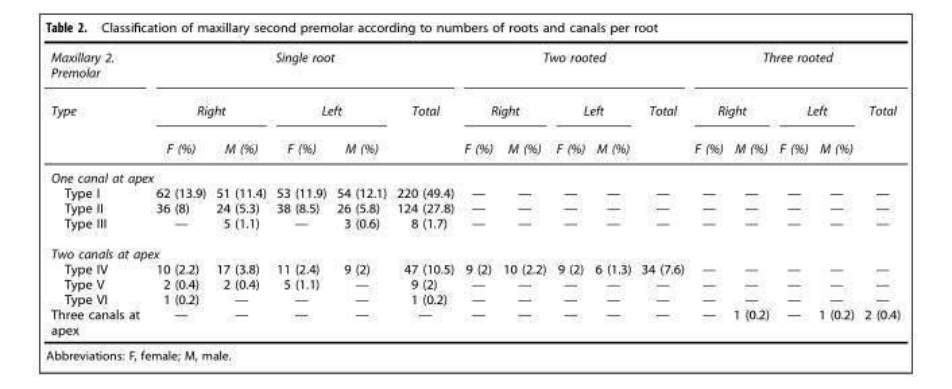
<table><thead><tr><td rowspan="3">Maxillary 2. Premolar Type</td><td colspan="5">Single root</td><td colspan="5">Two rooted</td><td colspan="5">Three rooted</td></tr><tr><td colspan="2">Right</td><td colspan="2">Left</td><td rowspan="2">Total</td><td colspan="2">Right</td><td colspan="2">Left</td><td rowspan="2">Total</td><td colspan="2">Right</td><td colspan="2">Left</td><td rowspan="2">Total</td></tr><tr><td>F (%)</td><td>M (%)</td><td>F (%)</td><td>M (%)</td><td>F (%)</td><td>M (%)</td><td>F (%)</td><td>M (%)</td><td>F (%)</td><td>M (%)</td><td>F (%)</td><td>M (%)</td></tr></thead><tbody><tr><td colspan="16">One canal at apex</td></tr><tr><td>Type I</td><td>62 (13.9)</td><td>51 (11.4)</td><td>53 (11.9)</td><td>54 (12.1)</td><td>220 (49.4)</td><td>—</td><td>—</td><td>—</td><td>—</td><td>—</td><td>—</td><td>—</td><td>—</td><td>—</td><td>—</td></tr><tr><td>Type II</td><td>36 (8)</td><td>24 (5.3)</td><td>38 (8.5)</td><td>26 (5.8)</td><td>124 (27.8)</td><td>—</td><td>—</td><td>—</td><td>—</td><td>—</td><td>—</td><td>—</td><td>—</td><td>—</td><td>—</td></tr><tr><td>Type III</td><td>—</td><td>5 (1.1)</td><td>—</td><td>3 (0.6)</td><td>8 (1.7)</td><td>—</td><td>—</td><td>—</td><td>—</td><td>—</td><td>—</td><td>—</td><td>—</td><td>—</td><td>—</td></tr><tr><td colspan="16">Two canals at apex</td></tr><tr><td>Type IV</td><td>10 (2.2)</td><td>17 (3.8)</td><td>11 (2.4)</td><td>9 (2)</td><td>47 (10.5)</td><td>9 (2)</td><td>10 (2.2)</td><td>9 (2)</td><td>6 (1.3)</td><td>34 (7.6)</td><td>—</td><td>—</td><td>—</td><td>—</td><td>—</td></tr><tr><td>Type V</td><td>2 (0.4)</td><td>2 (0.4)</td><td>5 (1.1)</td><td>—</td><td>9 (2)</td><td>—</td><td>—</td><td>—</td><td>—</td><td>—</td><td>—</td><td>—</td><td>—</td><td>—</td><td>—</td></tr><tr><td>Type VI</td><td>1 (0.2)</td><td>—</td><td>—</td><td>—</td><td>1 (0.2)</td><td>—</td><td>—</td><td>—</td><td>—</td><td>—</td><td>—</td><td>—</td><td>—</td><td>—</td><td>—</td></tr><tr><td>Three canals at apex</td><td>—</td><td>—</td><td>—</td><td>—</td><td>—</td><td>—</td><td>—</td><td>—</td><td>—</td><td>—</td><td>—</td><td>1 (0.2)</td><td>—</td><td>1 (0.2)</td><td>2 (0.4)</td></tr></tbody></table>